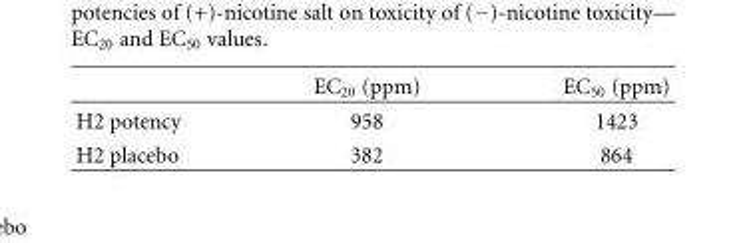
<table><thead><tr><td></td><td>EC<sub>20</sub> (ppm)</td><td>EC<sub>50</sub> (ppm)</td></tr></thead><tbody><tr><td>H2 potency</td><td>958</td><td>1423</td></tr><tr><td>H2 placebo</td><td>382</td><td>864</td></tr></tbody></table>